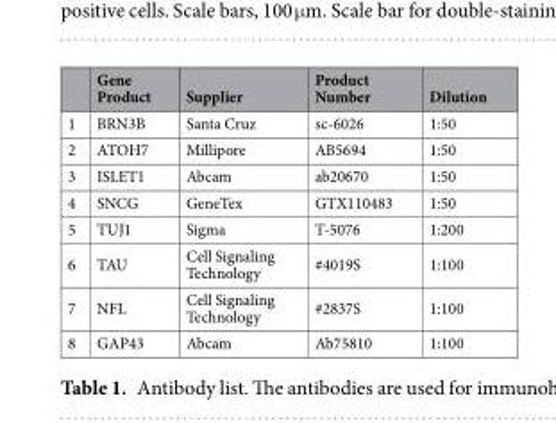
<table><thead><tr><td></td><td>Gene Product</td><td>Supplier</td><td>Product Number</td><td>Dilution</td></tr></thead><tbody><tr><td>1</td><td>BRN3B</td><td>Santa Cruz</td><td>sc-6026</td><td>1:50</td></tr><tr><td>2</td><td>ATOH7</td><td>Millipore</td><td>AB5694</td><td>1:50</td></tr><tr><td>3</td><td>ISLET1</td><td>Abcam</td><td>ab20670</td><td>1:50</td></tr><tr><td>4</td><td>SNCG</td><td>GeneTex</td><td>GTX110483</td><td>1:50</td></tr><tr><td>5</td><td>TUJ1</td><td>Sigma</td><td>T-5076</td><td>1:200</td></tr><tr><td>6</td><td>TAU</td><td>Cell Signaling Technology</td><td>#4019S</td><td>1:100</td></tr><tr><td>7</td><td>NFL</td><td>Cell Signaling Technology</td><td>#2837S</td><td>1:100</td></tr><tr><td>8</td><td>GAP43</td><td>Abcam</td><td>Ab75810</td><td>1:100</td></tr></tbody></table>